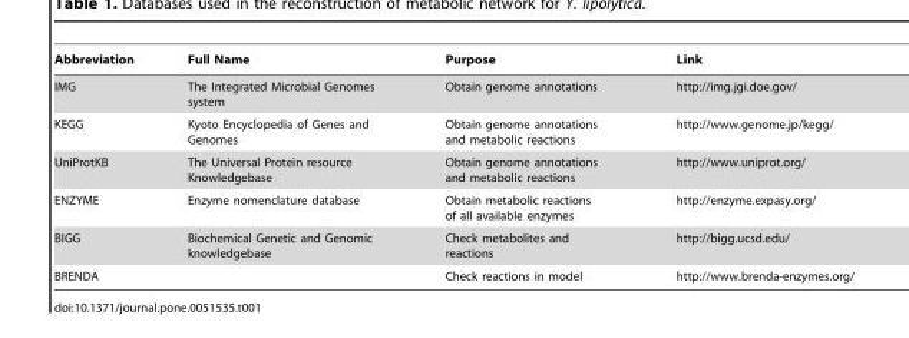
<table><thead><tr><td>Abbreviation</td><td>Full Name</td><td>Purpose</td><td>Link</td></tr></thead><tbody><tr><td>IMG</td><td>The Integrated Microbial Genomes system</td><td>Obtain genome annotations</td><td>http://img.jgi.doe.gov/</td></tr><tr><td>KEGG</td><td>Kyoto Encyclopedia of Genes and Genomes</td><td>Obtain genome annotations and metabolic reactions</td><td>http://www.genome.jp/kegg/</td></tr><tr><td>UniProtKB</td><td>The Universal Protein resource Knowledgebase</td><td>Obtain genome annotations and metabolic reactions</td><td>http://www.uniprot.org/</td></tr><tr><td>ENZYME</td><td>Enzyme nomenclature database</td><td>Obtain metabolic reactions of all available enzymes</td><td>http://enzyme.expasy.org/</td></tr><tr><td>BIGG</td><td>Biochemical Genetic and Genomic knowledgebase</td><td>Check metabolites and reactions</td><td>http://bigg.ucsd.edu/</td></tr><tr><td>BRENDA</td><td></td><td>Check reactions in model</td><td>http://www.brenda-enzymes.org/</td></tr></tbody></table>